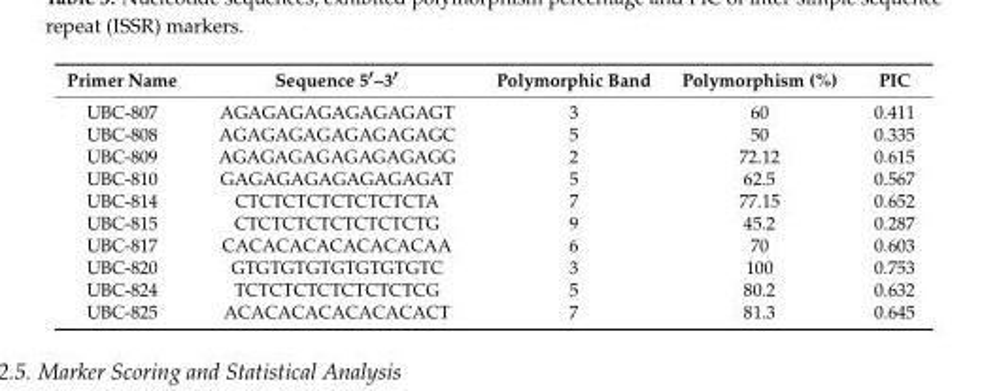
<table><thead><tr><td>Primer Name</td><td>Sequence 5′–3′</td><td>Polymorphic Band</td><td>Polymorphism (%)</td><td>PIC</td></tr></thead><tbody><tr><td>UBC-807</td><td>AGAGAGAGAGAGAGAGT</td><td>3</td><td>60</td><td>0.411</td></tr><tr><td>UBC-808</td><td>AGAGAGAGAGAGAGAGC</td><td>5</td><td>50</td><td>0.335</td></tr><tr><td>UBC-809</td><td>AGAGAGAGAGAGAGAGG</td><td>2</td><td>72.12</td><td>0.615</td></tr><tr><td>UBC-810</td><td>GAGAGAGAGAGAGAGAT</td><td>5</td><td>62.5</td><td>0.567</td></tr><tr><td>UBC-814</td><td>CTCTCTCTCTCTCTCTA</td><td>7</td><td>77.15</td><td>0.652</td></tr><tr><td>UBC-815</td><td>CTCTCTCTCTCTCTCTG</td><td>9</td><td>45.2</td><td>0.287</td></tr><tr><td>UBC-817</td><td>CACACACACACACACAA</td><td>6</td><td>70</td><td>0.603</td></tr><tr><td>UBC-820</td><td>GTGTGTGTGTGTGTGTC</td><td>3</td><td>100</td><td>0.753</td></tr><tr><td>UBC-824</td><td>TCTCTCTCTCTCTCTCG</td><td>5</td><td>80.2</td><td>0.632</td></tr><tr><td>UBC-825</td><td>ACACACACACACACACT</td><td>7</td><td>81.3</td><td>0.645</td></tr></tbody></table>